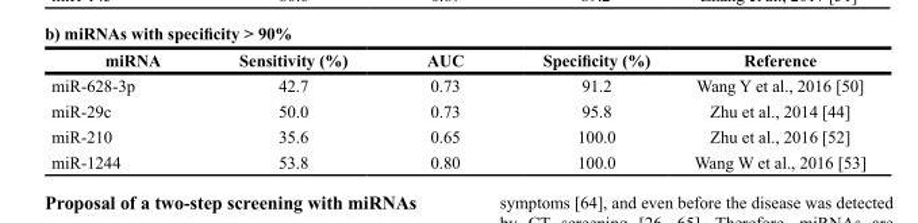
<table><thead><tr><td>miRNA</td><td>Sensitivity (%)</td><td>AUC</td><td>Specificity (%)</td><td>Reference</td></tr></thead><tbody><tr><td>miR-628-3p</td><td>42.7</td><td>0.73</td><td>91.2</td><td>Wang Y et al., 2016 [50]</td></tr><tr><td>miR-29c</td><td>50.0</td><td>0.73</td><td>95.8</td><td>Zhu et al., 2014 [44]</td></tr><tr><td>miR-210</td><td>35.6</td><td>0.65</td><td>100.0</td><td>Zhu et al., 2016 [52]</td></tr><tr><td>miR-1244</td><td>53.8</td><td>0.80</td><td>100.0</td><td>Wang W et al., 2016 [53]</td></tr></tbody></table>